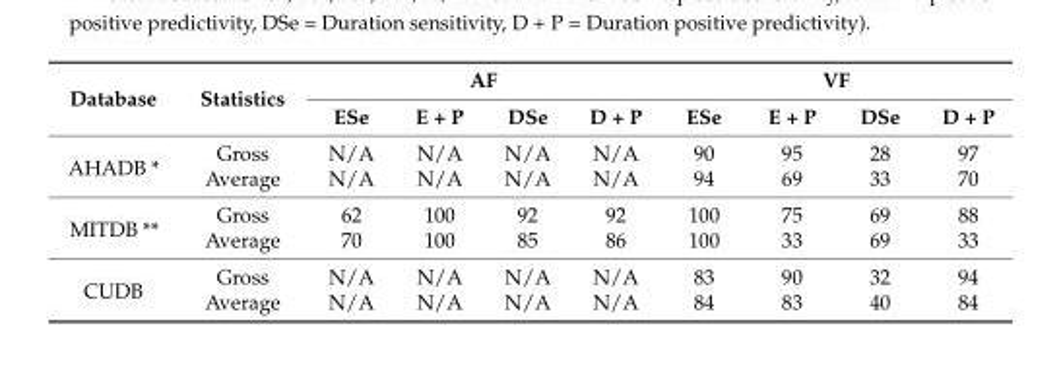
<table><thead><tr><td rowspan="2">Database</td><td rowspan="2">Statistics</td><td colspan="4">AF</td><td colspan="4">VF</td></tr><tr><td>ESe</td><td>E + P</td><td>DSe</td><td>D + P</td><td>ESe</td><td>E + P</td><td>DSe</td><td>D + P</td></tr></thead><tbody><tr><td rowspan="2">AHADB *</td><td>Gross</td><td>N/A</td><td>N/A</td><td>N/A</td><td>N/A</td><td>90</td><td>95</td><td>28</td><td>97</td></tr><tr><td>Average</td><td>N/A</td><td>N/A</td><td>N/A</td><td>N/A</td><td>94</td><td>69</td><td>33</td><td>70</td></tr><tr><td rowspan="2">MITDB **</td><td>Gross</td><td>62</td><td>100</td><td>92</td><td>92</td><td>100</td><td>75</td><td>69</td><td>88</td></tr><tr><td>Average</td><td>70</td><td>100</td><td>85</td><td>86</td><td>100</td><td>33</td><td>69</td><td>33</td></tr><tr><td rowspan="2">CUDB</td><td>Gross</td><td>N/A</td><td>N/A</td><td>N/A</td><td>N/A</td><td>83</td><td>90</td><td>32</td><td>94</td></tr><tr><td>Average</td><td>N/A</td><td>N/A</td><td>N/A</td><td>N/A</td><td>84</td><td>83</td><td>40</td><td>84</td></tr></tbody></table>